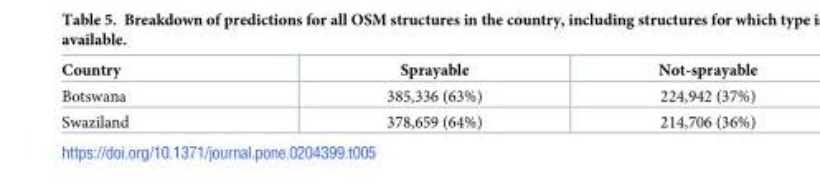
<table><thead><tr><td>Country</td><td>Sprayable</td><td>Not-sprayable</td></tr></thead><tbody><tr><td>Botswana</td><td>385,336 (63%)</td><td>224,942 (37%)</td></tr><tr><td>Swaziland</td><td>378,659 (64%)</td><td>214,706 (36%)</td></tr></tbody></table>